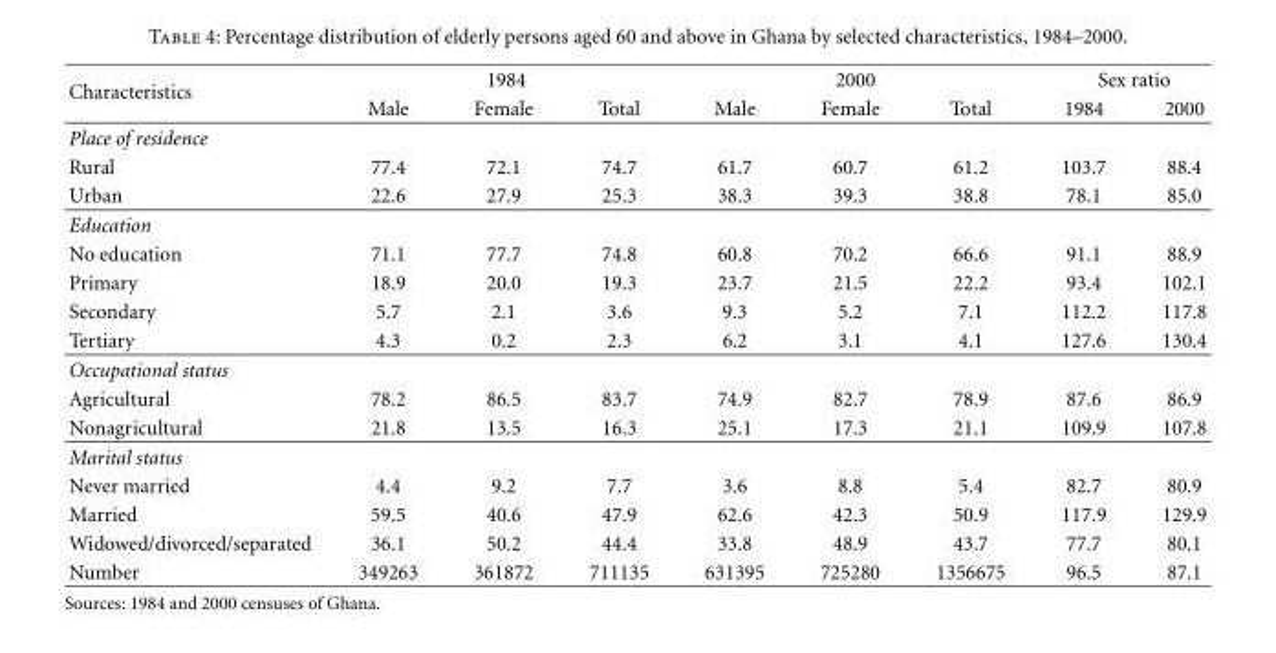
<table><thead><tr><td rowspan="2">Characteristics</td><td colspan="3">1984</td><td colspan="3">2000</td><td colspan="2">Sex ratio</td></tr><tr><td>Male</td><td>Female</td><td>Total</td><td>Male</td><td>Female</td><td>Total</td><td>1984</td><td>2000</td></tr></thead><tbody><tr><td colspan="9">Place of residence</td></tr><tr><td>Rural</td><td>77.4</td><td>72.1</td><td>74.7</td><td>61.7</td><td>60.7</td><td>61.2</td><td>103.7</td><td>88.4</td></tr><tr><td>Urban</td><td>22.6</td><td>27.9</td><td>25.3</td><td>38.3</td><td>39.3</td><td>38.8</td><td>78.1</td><td>85.0</td></tr><tr><td colspan="9">Education</td></tr><tr><td>No education</td><td>71.1</td><td>77.7</td><td>74.8</td><td>60.8</td><td>70.2</td><td>66.6</td><td>91.1</td><td>88.9</td></tr><tr><td>Primary</td><td>18.9</td><td>20.0</td><td>19.3</td><td>23.7</td><td>21.5</td><td>22.2</td><td>93.4</td><td>102.1</td></tr><tr><td>Secondary</td><td>5.7</td><td>2.1</td><td>3.6</td><td>9.3</td><td>5.2</td><td>7.1</td><td>112.2</td><td>117.8</td></tr><tr><td>Tertiary</td><td>4.3</td><td>0.2</td><td>2.3</td><td>6.2</td><td>3.1</td><td>4.1</td><td>127.6</td><td>130.4</td></tr><tr><td colspan="9">Occupational status</td></tr><tr><td>Agricultural</td><td>78.2</td><td>86.5</td><td>83.7</td><td>74.9</td><td>82.7</td><td>78.9</td><td>87.6</td><td>86.9</td></tr><tr><td>Nonagricultural</td><td>21.8</td><td>13.5</td><td>16.3</td><td>25.1</td><td>17.3</td><td>21.1</td><td>109.9</td><td>107.8</td></tr><tr><td colspan="9">Marital status</td></tr><tr><td>Never married</td><td>4.4</td><td>9.2</td><td>7.7</td><td>3.6</td><td>8.8</td><td>5.4</td><td>82.7</td><td>80.9</td></tr><tr><td>Married</td><td>59.5</td><td>40.6</td><td>47.9</td><td>62.6</td><td>42.3</td><td>50.9</td><td>117.9</td><td>129.9</td></tr><tr><td>Widowed/divorced/separated</td><td>36.1</td><td>50.2</td><td>44.4</td><td>33.8</td><td>48.9</td><td>43.7</td><td>77.7</td><td>80.1</td></tr><tr><td>Number</td><td>349263</td><td>361872</td><td>711135</td><td>631395</td><td>725280</td><td>1356675</td><td>96.5</td><td>87.1</td></tr></tbody></table>